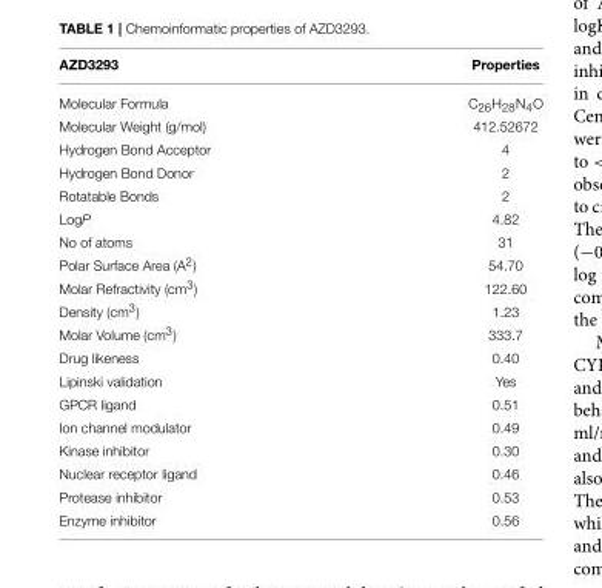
<table><thead><tr><td>AZD3293</td><td>Properties</td></tr></thead><tbody><tr><td>Molecular Formula</td><td>C<sub>26</sub>H<sub>28</sub>N<sub>4</sub>O</td></tr><tr><td>Molecular Weight (g/mol)</td><td>412.52672</td></tr><tr><td>Hydrogen Bond Acceptor</td><td>4</td></tr><tr><td>Hydrogen Bond Donor</td><td>2</td></tr><tr><td>Rotatable Bonds</td><td>2</td></tr><tr><td>LogP</td><td>4.82</td></tr><tr><td>No of atoms</td><td>31</td></tr><tr><td>Polar Surface Area (A<sup>2</sup>)</td><td>54.70</td></tr><tr><td>Molar Refractivity (cm<sup>3</sup>)</td><td>122.60</td></tr><tr><td>Density (cm<sup>3</sup>)</td><td>1.23</td></tr><tr><td>Molar Volume (cm<sup>3</sup>)</td><td>333.7</td></tr><tr><td>Drug likeness</td><td>0.40</td></tr><tr><td>Lipinski validation</td><td>Yes</td></tr><tr><td>GPCR ligand</td><td>0.51</td></tr><tr><td>Ion channel modulator</td><td>0.49</td></tr><tr><td>Kinase inhibitor</td><td>0.30</td></tr><tr><td>Nuclear receptor ligand</td><td>0.46</td></tr><tr><td>Protease inhibitor</td><td>0.53</td></tr><tr><td>Enzyme inhibitor</td><td>0.56</td></tr></tbody></table>